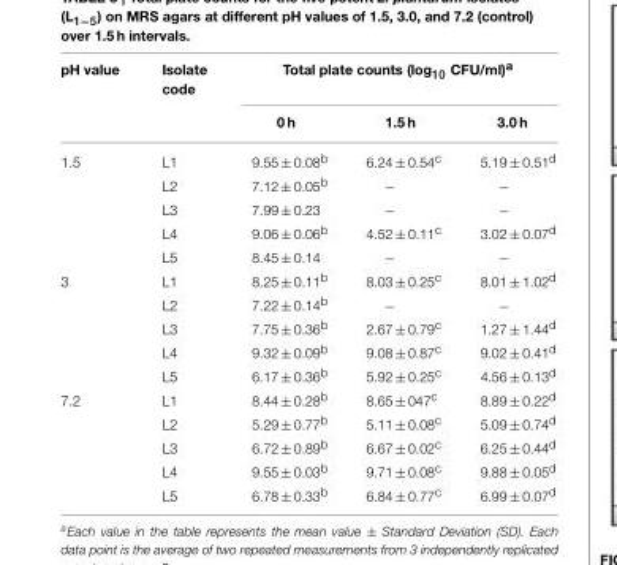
<table><thead><tr><td rowspan="2">pH value</td><td rowspan="2">Isolate code</td><td colspan="3">Total plate counts (log<sub>10</sub> CFU/ml)<sup>a</sup></td></tr><tr><td>0 h</td><td>1.5 h</td><td>3.0 h</td></tr></thead><tbody><tr><td rowspan="5">1.5</td><td>L1</td><td>9.55 ± 0.08<sup>b</sup></td><td>6.24 ± 0.54<sup>c</sup></td><td>5.19 ± 0.51<sup>d</sup></td></tr><tr><td>L2</td><td>7.12 ± 0.05<sup>b</sup></td><td>−</td><td>−</td></tr><tr><td>L3</td><td>7.99 ± 0.23</td><td>−</td><td>−</td></tr><tr><td>L4</td><td>9.06 ± 0.06<sup>b</sup></td><td>4.52 ± 0.11<sup>c</sup></td><td>3.02 ± 0.07<sup>d</sup></td></tr><tr><td>L5</td><td>8.45 ± 0.14</td><td>−</td><td>−</td></tr><tr><td rowspan="5">3</td><td>L1</td><td>8.25 ± 0.11<sup>b</sup></td><td>8.03 ± 0.25<sup>c</sup></td><td>8.01 ± 1.02<sup>d</sup></td></tr><tr><td>L2</td><td>7.22 ± 0.14<sup>b</sup></td><td>−</td><td>−</td></tr><tr><td>L3</td><td>7.75 ± 0.36<sup>b</sup></td><td>2.67 ± 0.79<sup>c</sup></td><td>1.27 ± 1.44<sup>d</sup></td></tr><tr><td>L4</td><td>9.32 ± 0.09<sup>b</sup></td><td>9.08 ± 0.87<sup>c</sup></td><td>9.02 ± 0.41<sup>d</sup></td></tr><tr><td>L5</td><td>6.17 ± 0.36<sup>b</sup></td><td>5.92 ± 0.25<sup>c</sup></td><td>4.56 ± 0.13<sup>d</sup></td></tr><tr><td rowspan="5">7.2</td><td>L1</td><td>8.44 ± 0.28<sup>b</sup></td><td>8.65 ± 047<sup>c</sup></td><td>8.89 ± 0.22<sup>d</sup></td></tr><tr><td>L2</td><td>5.29 ± 0.77<sup>b</sup></td><td>5.11 ± 0.08<sup>c</sup></td><td>5.09 ± 0.74<sup>d</sup></td></tr><tr><td>L3</td><td>6.72 ± 0.89<sup>b</sup></td><td>6.67 ± 0.02<sup>c</sup></td><td>6.25 ± 0.44<sup>d</sup></td></tr><tr><td>L4</td><td>9.55 ± 0.03<sup>b</sup></td><td>9.71 ± 0.08<sup>c</sup></td><td>9.88 ± 0.05<sup>d</sup></td></tr><tr><td>L5</td><td>6.78 ± 0.33<sup>b</sup></td><td>6.84 ± 0.77<sup>c</sup></td><td>6.99 ± 0.07<sup>d</sup></td></tr></tbody></table>